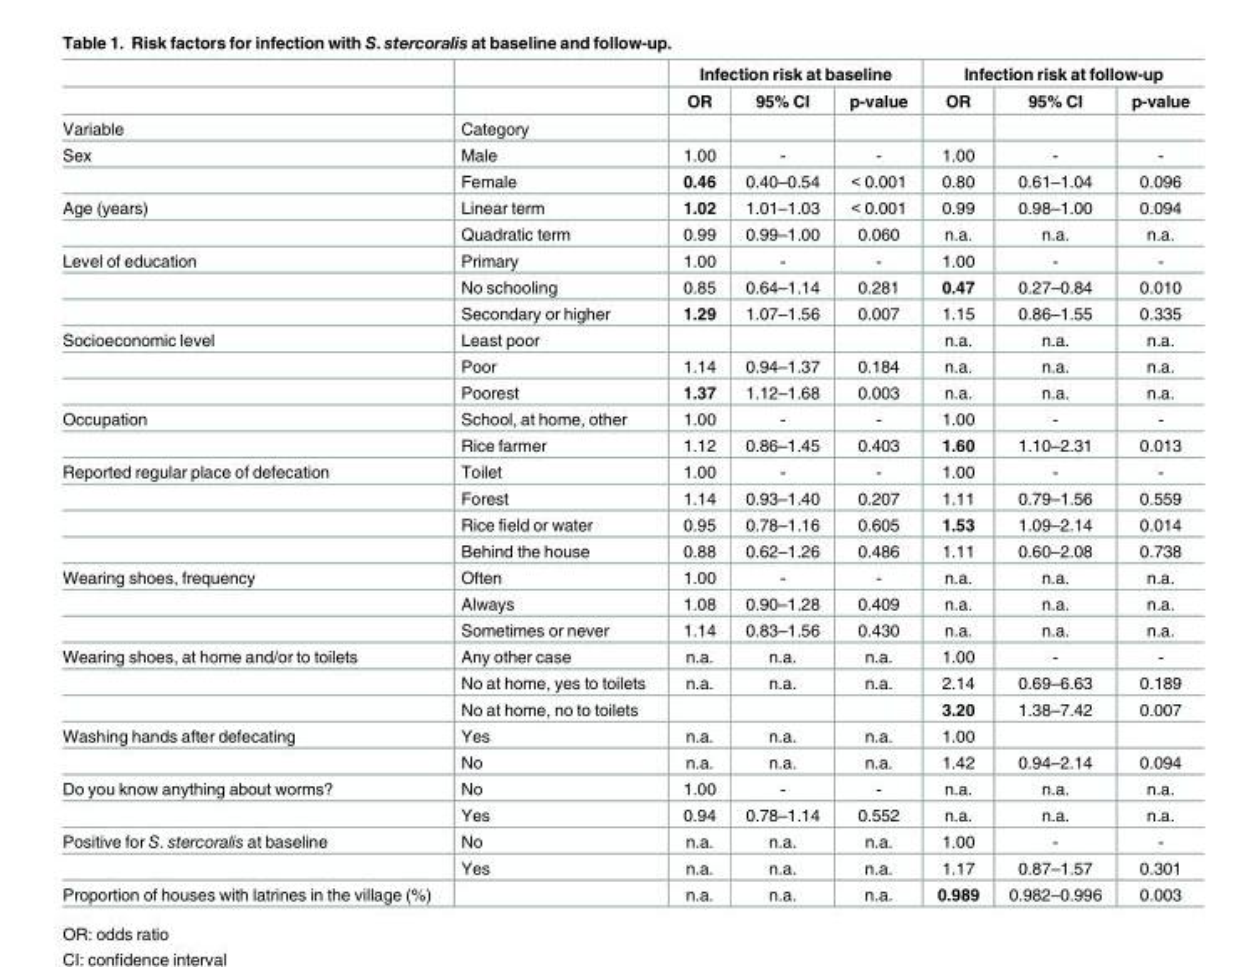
<table><thead><tr><td rowspan="2"></td><td rowspan="2"></td><td colspan="3">Infection risk at baseline</td><td colspan="3">Infection risk at follow-up</td></tr><tr><td>OR</td><td>95% CI</td><td>p-value</td><td>OR</td><td>95% CI</td><td>p-value</td></tr></thead><tbody><tr><td>Variable</td><td>Category</td><td></td><td></td><td></td><td></td><td></td><td></td></tr><tr><td rowspan="2">Sex</td><td>Male</td><td>1.00</td><td>-</td><td>-</td><td>1.00</td><td>-</td><td>-</td></tr><tr><td>Female</td><td>0.46</td><td>0.40–0.54</td><td>&lt; 0.001</td><td>0.80</td><td>0.61–1.04</td><td>0.096</td></tr><tr><td rowspan="2">Age (years)</td><td>Linear term</td><td>1.02</td><td>1.01–1.03</td><td>&lt; 0.001</td><td>0.99</td><td>0.98–1.00</td><td>0.094</td></tr><tr><td>Quadratic term</td><td>0.99</td><td>0.99–1.00</td><td>0.060</td><td>n.a.</td><td>n.a.</td><td>n.a.</td></tr><tr><td rowspan="3">Level of education</td><td>Primary</td><td>1.00</td><td>-</td><td>-</td><td>1.00</td><td>-</td><td>-</td></tr><tr><td>No schooling</td><td>0.85</td><td>0.64–1.14</td><td>0.281</td><td>0.47</td><td>0.27–0.84</td><td>0.010</td></tr><tr><td>Secondary or higher</td><td>1.29</td><td>1.07–1.56</td><td>0.007</td><td>1.15</td><td>0.86–1.55</td><td>0.335</td></tr><tr><td rowspan="3">Socioeconomic level</td><td>Least poor</td><td></td><td></td><td></td><td>n.a.</td><td>n.a.</td><td>n.a.</td></tr><tr><td>Poor</td><td>1.14</td><td>0.94–1.37</td><td>0.184</td><td>n.a.</td><td>n.a.</td><td>n.a.</td></tr><tr><td>Poorest</td><td>1.37</td><td>1.12–1.68</td><td>0.003</td><td>n.a.</td><td>n.a.</td><td>n.a.</td></tr><tr><td rowspan="2">Occupation</td><td>School, at home, other</td><td>1.00</td><td>-</td><td>-</td><td>1.00</td><td>-</td><td>-</td></tr><tr><td>Rice farmer</td><td>1.12</td><td>0.86–1.45</td><td>0.403</td><td>1.60</td><td>1.10–2.31</td><td>0.013</td></tr><tr><td rowspan="4">Reported regular place of defecation</td><td>Toilet</td><td>1.00</td><td>-</td><td>-</td><td>1.00</td><td>-</td><td>-</td></tr><tr><td>Forest</td><td>1.14</td><td>0.93–1.40</td><td>0.207</td><td>1.11</td><td>0.79–1.56</td><td>0.559</td></tr><tr><td>Rice field or water</td><td>0.95</td><td>0.78–1.16</td><td>0.605</td><td>1.53</td><td>1.09–2.14</td><td>0.014</td></tr><tr><td>Behind the house</td><td>0.88</td><td>0.62–1.26</td><td>0.486</td><td>1.11</td><td>0.60–2.08</td><td>0.738</td></tr><tr><td rowspan="3">Wearing shoes, frequency</td><td>Often</td><td>1.00</td><td>-</td><td>-</td><td>n.a.</td><td>n.a.</td><td>n.a.</td></tr><tr><td>Always</td><td>1.08</td><td>0.90–1.28</td><td>0.409</td><td>n.a.</td><td>n.a.</td><td>n.a.</td></tr><tr><td>Sometimes or never</td><td>1.14</td><td>0.83–1.56</td><td>0.430</td><td>n.a.</td><td>n.a.</td><td>n.a.</td></tr><tr><td rowspan="3">Wearing shoes, at home and/or to toilets</td><td>Any other case</td><td>n.a.</td><td>n.a.</td><td>n.a.</td><td>1.00</td><td>-</td><td>-</td></tr><tr><td>No at home, yes to toilets</td><td>n.a.</td><td>n.a.</td><td>n.a.</td><td>2.14</td><td>0.69–6.63</td><td>0.189</td></tr><tr><td>No at home, no to toilets</td><td></td><td></td><td></td><td>3.20</td><td>1.38–7.42</td><td>0.007</td></tr><tr><td rowspan="2">Washing hands after defecating</td><td>Yes</td><td>n.a.</td><td>n.a.</td><td>n.a.</td><td>1.00</td><td></td><td></td></tr><tr><td>No</td><td>n.a.</td><td>n.a.</td><td>n.a.</td><td>1.42</td><td>0.94–2.14</td><td>0.094</td></tr><tr><td rowspan="2">Do you know anything about worms?</td><td>No</td><td>1.00</td><td>-</td><td>-</td><td>n.a.</td><td>n.a.</td><td>n.a.</td></tr><tr><td>Yes</td><td>0.94</td><td>0.78–1.14</td><td>0.552</td><td>n.a.</td><td>n.a.</td><td>n.a.</td></tr><tr><td rowspan="2">Positive for S. stercoralis at baseline</td><td>No</td><td>n.a.</td><td>n.a.</td><td>n.a.</td><td>1.00</td><td>-</td><td>-</td></tr><tr><td>Yes</td><td>n.a.</td><td>n.a.</td><td>n.a.</td><td>1.17</td><td>0.87–1.57</td><td>0.301</td></tr><tr><td>Proportion of houses with latrines in the village (%)</td><td></td><td>n.a.</td><td>n.a.</td><td>n.a.</td><td>0.989</td><td>0.982–0.996</td><td>0.003</td></tr></tbody></table>